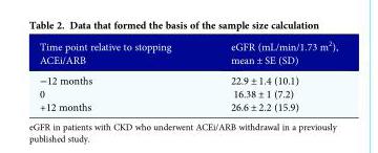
<table><thead><tr><td>Time point relative to stopping ACEi/ARB</td><td>eGFR (mL/min/1.73 m<sup>2</sup>), mean ± SE (SD)</td></tr></thead><tbody><tr><td>−12 months</td><td>22.9 ± 1.4 (10.1)</td></tr><tr><td>0</td><td>16.38 ± 1 (7.2)</td></tr><tr><td>+12 months</td><td>26.6 ± 2.2 (15.9)</td></tr></tbody></table>